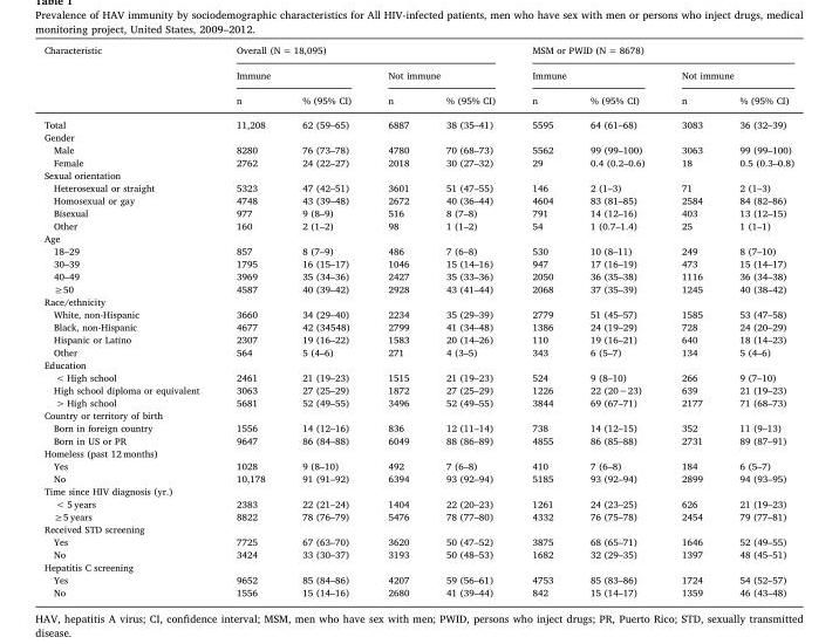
<table><thead><tr><td rowspan="3">Characteristic</td><td colspan="4">Overall (N = 18,095)</td><td colspan="4">MSM or PWID (N = 8678)</td></tr><tr><td colspan="2">Immune</td><td colspan="2">Not immune</td><td colspan="2">Immune</td><td colspan="2">Not immune</td></tr><tr><td>n</td><td>% (95% CI)</td><td>n</td><td>% (95% CI)</td><td>n</td><td>% (95% CI)</td><td>n</td><td>% (95% CI)</td></tr></thead><tbody><tr><td>Total</td><td>11,208</td><td>62 (59–65)</td><td>6887</td><td>38 (35–41)</td><td>5595</td><td>64 (61–68)</td><td>3083</td><td>36 (32–39)</td></tr><tr><td colspan="9">Gender</td></tr><tr><td>Male</td><td>8280</td><td>76 (73–78)</td><td>4780</td><td>70 (68–73)</td><td>5562</td><td>99 (99–100)</td><td>3063</td><td>99 (99–100)</td></tr><tr><td>Female</td><td>2762</td><td>24 (22–27)</td><td>2018</td><td>30 (27–32)</td><td>29</td><td>0.4 (0.2–0.6)</td><td>18</td><td>0.5 (0.3–0.8)</td></tr><tr><td colspan="9">Sexual orientation</td></tr><tr><td>Heterosexual or straight</td><td>5323</td><td>47 (42–51)</td><td>3601</td><td>51 (47–55)</td><td>146</td><td>2 (1–3)</td><td>71</td><td>2 (1–3)</td></tr><tr><td>Homosexual or gay</td><td>4748</td><td>43 (39–48)</td><td>2672</td><td>40 (36–44)</td><td>4604</td><td>83 (81–85)</td><td>2584</td><td>84 (82–86)</td></tr><tr><td>Bisexual</td><td>977</td><td>9 (8–9)</td><td>516</td><td>8 (7–8)</td><td>791</td><td>14 (12–16)</td><td>403</td><td>13 (12–15)</td></tr><tr><td>Other</td><td>160</td><td>2 (1–2)</td><td>98</td><td>1 (1–2)</td><td>54</td><td>1 (0.7–1.4)</td><td>25</td><td>1 (1–1)</td></tr><tr><td colspan="9">Age</td></tr><tr><td>18–29</td><td>857</td><td>8 (7–9)</td><td>486</td><td>7 (6–8)</td><td>530</td><td>10 (8–11)</td><td>249</td><td>8 (7–10)</td></tr><tr><td>30–39</td><td>1795</td><td>16 (15–17)</td><td>1046</td><td>15 (14–16)</td><td>947</td><td>17 (16–19)</td><td>473</td><td>15 (14–17)</td></tr><tr><td>40–49</td><td>3969</td><td>35 (34–36)</td><td>2427</td><td>35 (33–36)</td><td>2050</td><td>36 (35–38)</td><td>1116</td><td>36 (34–38)</td></tr><tr><td>≥50</td><td>4587</td><td>40 (39–42)</td><td>2928</td><td>43 (41–44)</td><td>2068</td><td>37 (35–39)</td><td>1245</td><td>40 (38–42)</td></tr><tr><td colspan="9">Race/ethnicity</td></tr><tr><td>White, non-Hispanic</td><td>3660</td><td>34 (29–40)</td><td>2234</td><td>35 (29–39)</td><td>2779</td><td>51 (45–57)</td><td>1585</td><td>53 (47–58)</td></tr><tr><td>Black, non-Hispanic</td><td>4677</td><td>42 (34548)</td><td>2799</td><td>41 (34–48)</td><td>1386</td><td>24 (19–29)</td><td>728</td><td>24 (20–29)</td></tr><tr><td>Hispanic or Latino</td><td>2307</td><td>19 (16–22)</td><td>1583</td><td>20 (14–26)</td><td>110</td><td>19 (16–21)</td><td>640</td><td>18 (14–23)</td></tr><tr><td>Other</td><td>564</td><td>5 (4–6)</td><td>271</td><td>4 (3–5)</td><td>343</td><td>6 (5–7)</td><td>134</td><td>5 (4–6)</td></tr><tr><td colspan="9">Education</td></tr><tr><td>&lt; High school</td><td>2461</td><td>21 (19–23)</td><td>1515</td><td>21 (19–23)</td><td>524</td><td>9 (8–10)</td><td>266</td><td>9 (7–10)</td></tr><tr><td>High school diploma or equivalent</td><td>3063</td><td>27 (25–29)</td><td>1872</td><td>27 (25–29)</td><td>1226</td><td>22 (20−23)</td><td>639</td><td>21 (19–23)</td></tr><tr><td>&gt; High school</td><td>5681</td><td>52 (49–55)</td><td>3496</td><td>52 (49–55)</td><td>3844</td><td>69 (67–71)</td><td>2177</td><td>71 (68–73)</td></tr><tr><td colspan="9">Country or territory of birth</td></tr><tr><td>Born in foreign country</td><td>1556</td><td>14 (12–16)</td><td>836</td><td>12 (11–14)</td><td>738</td><td>14 (12–15)</td><td>352</td><td>11 (9–13)</td></tr><tr><td>Born in US or PR</td><td>9647</td><td>86 (84–88)</td><td>6049</td><td>88 (86–89)</td><td>4855</td><td>86 (85–88)</td><td>2731</td><td>89 (87–91)</td></tr><tr><td colspan="9">Homeless (past 12 months)</td></tr><tr><td>Yes</td><td>1028</td><td>9 (8–10)</td><td>492</td><td>7 (6–8)</td><td>410</td><td>7 (6–8)</td><td>184</td><td>6 (5–7)</td></tr><tr><td>No</td><td>10,178</td><td>91 (91–92)</td><td>6394</td><td>93 (92–94)</td><td>5185</td><td>93 (92–94)</td><td>2899</td><td>94 (93–95)</td></tr><tr><td colspan="9">Time since HIV diagnosis (yr.)</td></tr><tr><td>&lt; 5 years</td><td>2383</td><td>22 (21–24)</td><td>1404</td><td>22 (20–23)</td><td>1261</td><td>24 (23–25)</td><td>626</td><td>21 (19–23)</td></tr><tr><td>≥5 years</td><td>8822</td><td>78 (76–79)</td><td>5476</td><td>78 (77–80)</td><td>4332</td><td>76 (75–78)</td><td>2454</td><td>79 (77–81)</td></tr><tr><td colspan="9">Received STD screening</td></tr><tr><td>Yes</td><td>7725</td><td>67 (63–70)</td><td>3620</td><td>50 (47–52)</td><td>3875</td><td>68 (65–71)</td><td>1646</td><td>52 (49–55)</td></tr><tr><td>No</td><td>3424</td><td>33 (30–37)</td><td>3193</td><td>50 (48–53)</td><td>1682</td><td>32 (29–35)</td><td>1397</td><td>48 (45–51)</td></tr><tr><td colspan="9">Hepatitis C screening</td></tr><tr><td>Yes</td><td>9652</td><td>85 (84–86)</td><td>4207</td><td>59 (56–61)</td><td>4753</td><td>85 (83–86)</td><td>1724</td><td>54 (52–57)</td></tr><tr><td>No</td><td>1556</td><td>15 (14–16)</td><td>2680</td><td>41 (39–44)</td><td>842</td><td>15 (14–17)</td><td>1359</td><td>46 (43–48)</td></tr></tbody></table>